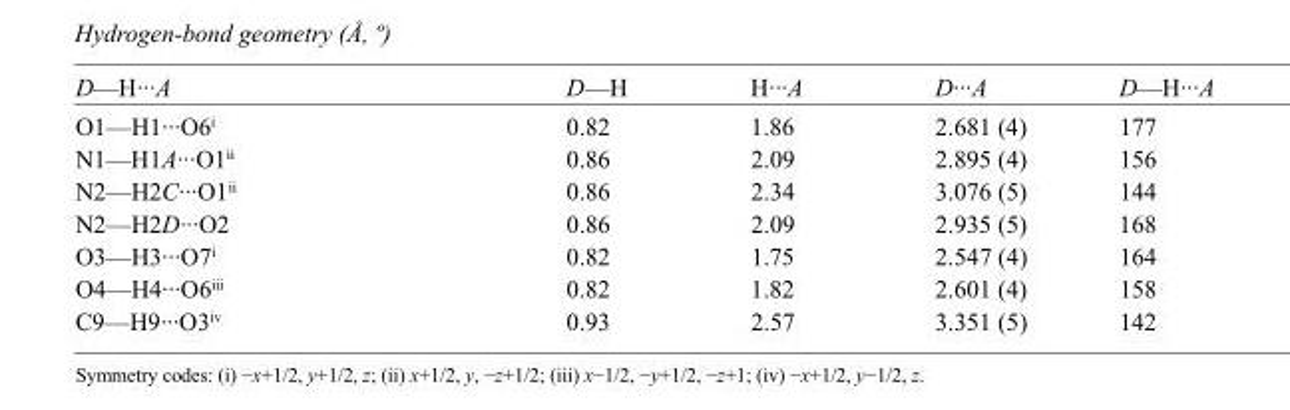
<table><tbody><tr><td>D—H···A</td><td>D—H</td><td>H···A</td><td>D···A</td><td>D—H···A</td></tr><tr><td>O1—H1···O6<sup>i</sup></td><td>0.82</td><td>1.86</td><td>2.681 (4)</td><td>177</td></tr><tr><td>N1—H1A···O1<sup>ii</sup></td><td>0.86</td><td>2.09</td><td>2.895 (4)</td><td>156</td></tr><tr><td>N2—H2C···O1<sup>ii</sup></td><td>0.86</td><td>2.34</td><td>3.076 (5)</td><td>144</td></tr><tr><td>N2—H2D···O2</td><td>0.86</td><td>2.09</td><td>2.935 (5)</td><td>168</td></tr><tr><td>O3—H3···O7<sup>i</sup></td><td>0.82</td><td>1.75</td><td>2.547 (4)</td><td>164</td></tr><tr><td>O4—H4···O6<sup>iii</sup></td><td>0.82</td><td>1.82</td><td>2.601 (4)</td><td>158</td></tr><tr><td>C9—H9···O3<sup>iv</sup></td><td>0.93</td><td>2.57</td><td>3.351 (5)</td><td>142</td></tr></tbody></table>